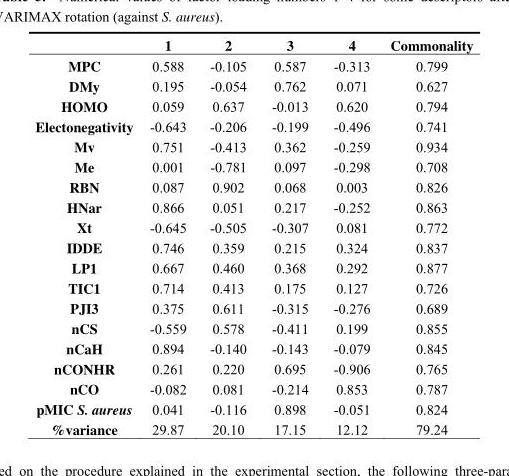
<table><thead><tr><td></td><td>1</td><td>2</td><td>3</td><td>4</td><td>Commonality</td></tr></thead><tbody><tr><td>MPC</td><td>0.588</td><td>-0.105</td><td>0.587</td><td>-0.313</td><td>0.799</td></tr><tr><td>DMy</td><td>0.195</td><td>-0.054</td><td>0.762</td><td>0.071</td><td>0.627</td></tr><tr><td>HOMO</td><td>0.059</td><td>0.637</td><td>-0.013</td><td>0.620</td><td>0.794</td></tr><tr><td>Electonegativity</td><td>-0.643</td><td>-0.206</td><td>-0.199</td><td>-0.496</td><td>0.741</td></tr><tr><td>Mv</td><td>0.751</td><td>-0.413</td><td>0.362</td><td>-0.259</td><td>0.934</td></tr><tr><td>Me</td><td>0.001</td><td>-0.781</td><td>0.097</td><td>-0.298</td><td>0.708</td></tr><tr><td>RBN</td><td>0.087</td><td>0.902</td><td>0.068</td><td>0.003</td><td>0.826</td></tr><tr><td>HNar</td><td>0.866</td><td>0.051</td><td>0.217</td><td>-0.252</td><td>0.863</td></tr><tr><td>Xt</td><td>-0.645</td><td>-0.505</td><td>-0.307</td><td>0.081</td><td>0.772</td></tr><tr><td>IDDE</td><td>0.746</td><td>0.359</td><td>0.215</td><td>0.324</td><td>0.837</td></tr><tr><td>LP1</td><td>0.667</td><td>0.460</td><td>0.368</td><td>0.292</td><td>0.877</td></tr><tr><td>TIC1</td><td>0.714</td><td>0.413</td><td>0.175</td><td>0.127</td><td>0.726</td></tr><tr><td>PJI3</td><td>0.375</td><td>0.611</td><td>-0.315</td><td>-0.276</td><td>0.689</td></tr><tr><td>nCS</td><td>-0.559</td><td>0.578</td><td>-0.411</td><td>0.199</td><td>0.855</td></tr><tr><td>nCaH</td><td>0.894</td><td>-0.140</td><td>-0.143</td><td>-0.079</td><td>0.845</td></tr><tr><td>nCONHR</td><td>0.261</td><td>0.220</td><td>0.695</td><td>-0.906</td><td>0.765</td></tr><tr><td>nCO</td><td>-0.082</td><td>0.081</td><td>-0.214</td><td>0.853</td><td>0.787</td></tr><tr><td>pMIC S. aureus</td><td>0.041</td><td>-0.116</td><td>0.898</td><td>-0.051</td><td>0.824</td></tr><tr><td>%variance</td><td>29.87</td><td>20.10</td><td>17.15</td><td>12.12</td><td>79.24</td></tr></tbody></table>